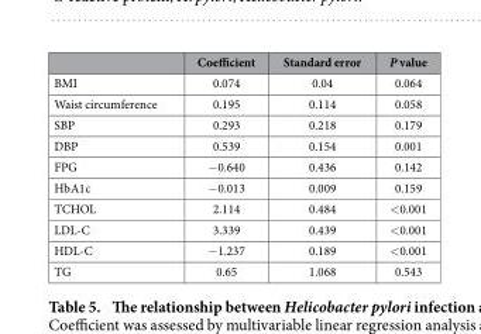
<table><thead><tr><td></td><td>Coefficient</td><td>Standard error</td><td>P value</td></tr></thead><tbody><tr><td>BMI</td><td>0.074</td><td>0.04</td><td>0.064</td></tr><tr><td>Waist circumference</td><td>0.195</td><td>0.114</td><td>0.058</td></tr><tr><td>SBP</td><td>0.293</td><td>0.218</td><td>0.179</td></tr><tr><td>DBP</td><td>0.539</td><td>0.154</td><td>0.001</td></tr><tr><td>FPG</td><td>− 0.640</td><td>0.436</td><td>0.142</td></tr><tr><td>HbA1c</td><td>− 0.013</td><td>0.009</td><td>0.159</td></tr><tr><td>TCHOL</td><td>2.114</td><td>0.484</td><td>&lt; 0.001</td></tr><tr><td>LDL-C</td><td>3.339</td><td>0.439</td><td>&lt; 0.001</td></tr><tr><td>HDL-C</td><td>− 1.237</td><td>0.189</td><td>&lt; 0.001</td></tr><tr><td>TG</td><td>0.65</td><td>1.068</td><td>0.543</td></tr></tbody></table>